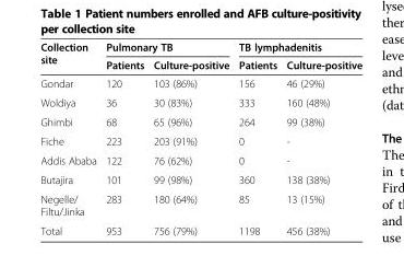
<table><thead><tr><td rowspan="2">Collection site</td><td colspan="2">Pulmonary TB</td><td colspan="2">TB lymphadenitis</td></tr><tr><td>Patients</td><td>Culture-positive</td><td>Patients</td><td>Culture-positive</td></tr></thead><tbody><tr><td>Gondar</td><td>120</td><td>103 (86%)</td><td>156</td><td>46 (29%)</td></tr><tr><td>Woldiya</td><td>36</td><td>30 (83%)</td><td>333</td><td>160 (48%)</td></tr><tr><td>Ghimbi</td><td>68</td><td>65 (96%)</td><td>264</td><td>99 (38%)</td></tr><tr><td>Fiche</td><td>223</td><td>203 (91%)</td><td>0</td><td>-</td></tr><tr><td>Addis Ababa</td><td>122</td><td>76 (62%)</td><td>0</td><td>-</td></tr><tr><td>Butajira</td><td>101</td><td>99 (98%)</td><td>360</td><td>138 (38%)</td></tr><tr><td>Negelle/ Filtu/Jinka</td><td>283</td><td>180 (64%)</td><td>85</td><td>13 (15%)</td></tr><tr><td>Total</td><td>953</td><td>756 (79%)</td><td>1198</td><td>456 (38%)</td></tr></tbody></table>